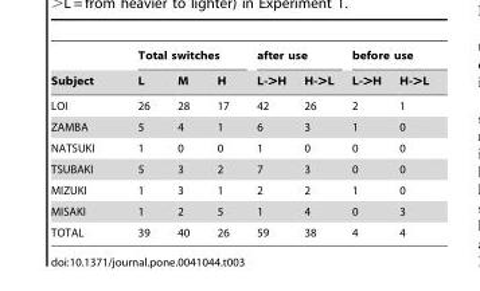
<table><thead><tr><td rowspan="2">Subject</td><td colspan="3">Total switches</td><td colspan="2">after use</td><td colspan="2">before use</td></tr><tr><td>L</td><td>M</td><td>H</td><td>L-&gt;H</td><td>H-&gt;L</td><td>L-&gt;H</td><td>H-&gt;L</td></tr></thead><tbody><tr><td>LOI</td><td>26</td><td>28</td><td>17</td><td>42</td><td>26</td><td>2</td><td>1</td></tr><tr><td>ZAMBA</td><td>5</td><td>4</td><td>1</td><td>6</td><td>3</td><td>1</td><td>0</td></tr><tr><td>NATSUKI</td><td>1</td><td>0</td><td>0</td><td>1</td><td>0</td><td>0</td><td>0</td></tr><tr><td>TSUBAKI</td><td>5</td><td>3</td><td>2</td><td>7</td><td>3</td><td>0</td><td>0</td></tr><tr><td>MIZUKI</td><td>1</td><td>3</td><td>1</td><td>2</td><td>2</td><td>1</td><td>0</td></tr><tr><td>MISAKI</td><td>1</td><td>2</td><td>5</td><td>1</td><td>4</td><td>0</td><td>3</td></tr><tr><td>TOTAL</td><td>39</td><td>40</td><td>26</td><td>59</td><td>38</td><td>4</td><td>4</td></tr></tbody></table>